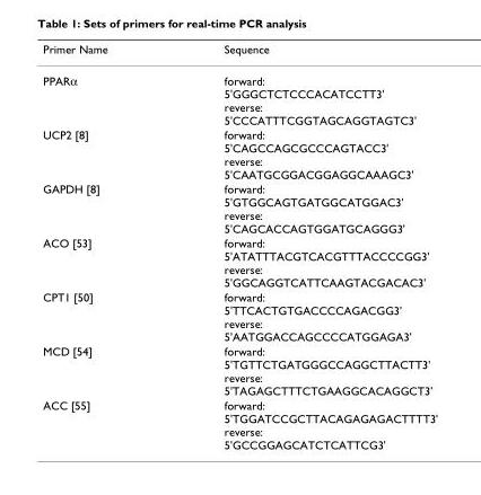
<table><thead><tr><td>Primer Name</td><td>Sequence</td></tr></thead><tbody><tr><td>PPARα</td><td>forward: 5&#x27;GGGCTCTCCCACATCCTT3&#x27; reverse: 5&#x27;CCCATTTCGGTAGCAGGTAGTC3&#x27;</td></tr><tr><td>UCP2 [8]</td><td>forward: 5&#x27;CAGCCAGCGCCCAGTACC3&#x27; reverse: 5&#x27;CAATGCGGACGGAGGCAAAGC3&#x27;</td></tr><tr><td>GAPDH [8]</td><td>forward: 5&#x27;GTGGCAGTGATGGCATGGAC3&#x27; reverse: 5&#x27;CAGCACCAGTGGATGCAGGG3&#x27;</td></tr><tr><td>ACO [53]</td><td>forward: 5&#x27;ATATTTACGTCACGTTTACCCCGG3&#x27; reverse: 5&#x27;GGCAGGTCATTCAAGTACGACAC3&#x27;</td></tr><tr><td>CPT1 [50]</td><td>forward: 5&#x27;TTCACTGTGACCCCAGACGG3&#x27; reverse: 5&#x27;AATGGACCAGCCCCATGGAGA3&#x27;</td></tr><tr><td>MCD [54]</td><td>forward: 5&#x27;TGTTCTGATGGGCCAGGCTTACTT3&#x27; reverse: 5&#x27;TAGAGCTTTCTGAAGGCACAGGCT3&#x27;</td></tr><tr><td>ACC [55]</td><td>forward: 5&#x27;TGGATCCGCTTACAGAGAGACTTTT3&#x27; reverse: 5&#x27;GCCGGAGCATCTCATTCG3&#x27;</td></tr></tbody></table>